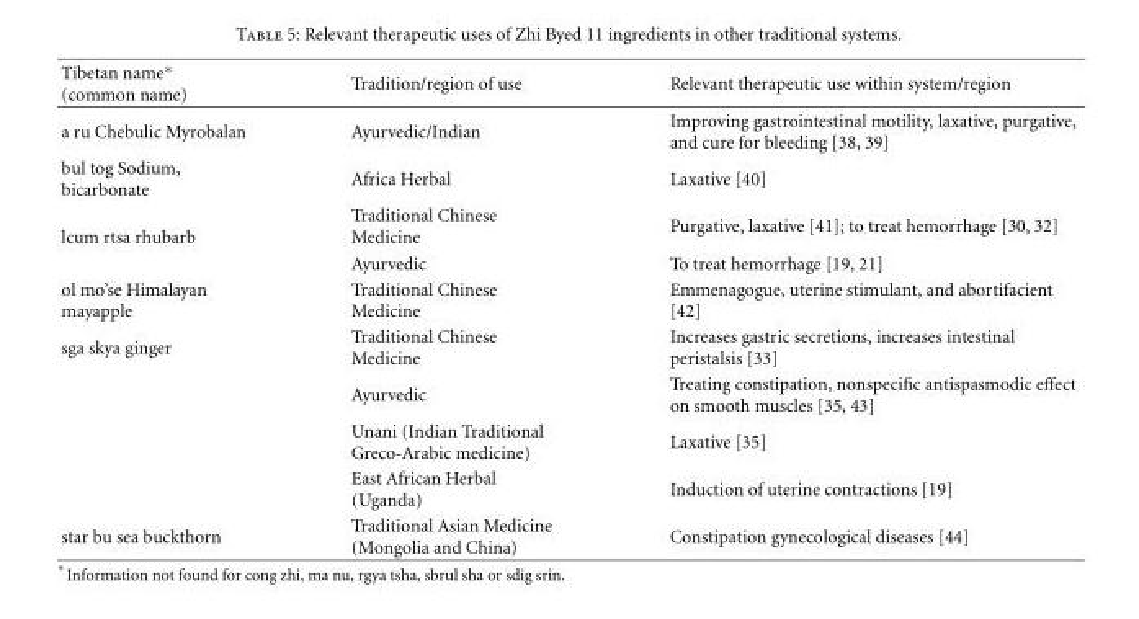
<table><thead><tr><td>Tibetan name∗ (common name)</td><td>Tradition/region of use</td><td>Relevant therapeutic use within system/region</td></tr></thead><tbody><tr><td>a ru Chebulic Myrobalan</td><td>Ayurvedic/Indian</td><td>Improving gastrointestinal motility, laxative, purgative, and cure for bleeding [38, 39]</td></tr><tr><td>bul tog Sodium, bicarbonate</td><td>Africa Herbal</td><td>Laxative [40]</td></tr><tr><td rowspan="2">lcum rtsa rhubarb</td><td>Traditional Chinese Medicine</td><td>Purgative, laxative [41]; to treat hemorrhage [30, 32]</td></tr><tr><td>Ayurvedic</td><td>To treat hemorrhage [19, 21]</td></tr><tr><td>ol mo’se Himalayan mayapple</td><td>Traditional Chinese Medicine</td><td>Emmenagogue, uterine stimulant, and abortifacient [42]</td></tr><tr><td rowspan="4">sga skya ginger</td><td>Traditional Chinese Medicine</td><td>Increases gastric secretions, increases intestinal peristalsis [33]</td></tr><tr><td>Ayurvedic</td><td>Treating constipation, nonspecific antispasmodic effect on smooth muscles [35, 43]</td></tr><tr><td>Unani (Indian Traditional Greco-Arabic medicine)</td><td>Laxative [35]</td></tr><tr><td>East African Herbal (Uganda)</td><td>Induction of uterine contractions [19]</td></tr><tr><td>star bu sea buckthorn</td><td>Traditional Asian Medicine (Mongolia and China)</td><td>Constipation gynecological diseases [44]</td></tr></tbody></table>